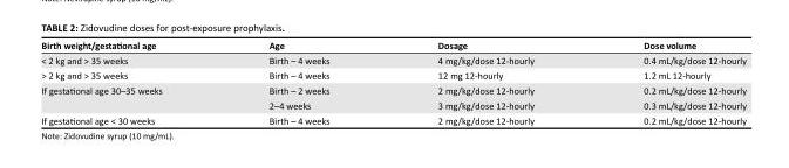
<table><thead><tr><td>Birth weight/gestational age</td><td>Age</td><td>Dosage</td><td>Dose volume</td></tr></thead><tbody><tr><td>&lt; 2 kg and &gt; 35 weeks</td><td>Birth – 4 weeks</td><td>4 mg/kg/dose 12-hourly</td><td>0.4 mL/kg/dose 12-hourly</td></tr><tr><td>&gt; 2 kg and &gt; 35 weeks</td><td>Birth – 4 weeks</td><td>12 mg 12-hourly</td><td>1.2 mL 12-hourly</td></tr><tr><td rowspan="2">If gestational age 30–35 weeks</td><td>Birth – 2 weeks</td><td>2 mg/kg/dose 12-hourly</td><td>0.2 mL/kg/dose 12-hourly</td></tr><tr><td>2–4 weeks</td><td>3 mg/kg/dose 12-hourly</td><td>0.3 mL/kg/dose 12-hourly</td></tr><tr><td>If gestational age &lt; 30 weeks</td><td>Birth – 4 weeks</td><td>2 mg/kg/dose 12-hourly</td><td>0.2 mL/kg/dose 12-hourly</td></tr></tbody></table>